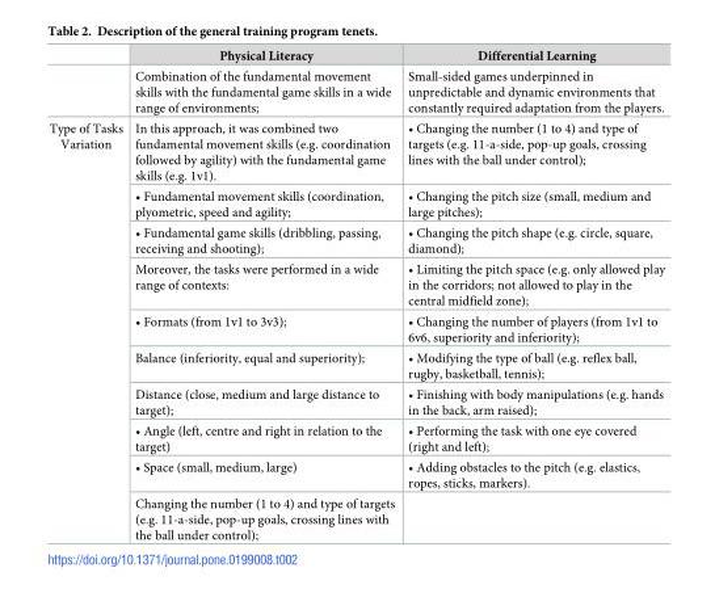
<table><thead><tr><td></td><td>Physical Literacy</td><td>Differential Learning</td></tr></thead><tbody><tr><td></td><td>Combination of the fundamental movement skills with the fundamental game skills in a wide range of environments;</td><td>Small-sided games underpinned in unpredictable and dynamic environments that constantly required adaptation from the players.</td></tr><tr><td rowspan="10">Type of Tasks Variation</td><td>In this approach, it was combined two fundamental movement skills (e.g. coordination followed by agility) with the fundamental game skills (e.g. 1v1).</td><td>• Changing the number (1 to 4) and type of targets (e.g. 11-a-side, pop-up goals, crossing lines with the ball under control);</td></tr><tr><td>• Fundamental movement skills (coordination, plyometric, speed and agility;</td><td>• Changing the pitch size (small, medium and large pitches);</td></tr><tr><td>• Fundamental game skills (dribbling, passing, receiving and shooting);</td><td>• Changing the pitch shape (e.g. circle, square, diamond);</td></tr><tr><td>Moreover, the tasks were performed in a wide range of contexts:</td><td>• Limiting the pitch space (e.g. only allowed play in the corridors; not allowed to play in the central midfield zone);</td></tr><tr><td>• Formats (from 1v1 to 3v3);</td><td>• Changing the number of players (from 1v1 to 6v6, superiority and inferiority);</td></tr><tr><td>Balance (inferiority, equal and superiority);</td><td>• Modifying the type of ball (e.g. reflex ball, rugby, basketball, tennis);</td></tr><tr><td>Distance (close, medium and large distance to target);</td><td>• Finishing with body manipulations (e.g. hands in the back, arm raised);</td></tr><tr><td>• Angle (left, centre and right in relation to the target)</td><td>• Performing the task with one eye covered (right and left);</td></tr><tr><td>• Space (small, medium, large)</td><td>• Adding obstacles to the pitch (e.g. elastics, ropes, sticks, markers).</td></tr><tr><td>Changing the number (1 to 4) and type of targets (e.g. 11-a-side, pop-up goals, crossing lines with the ball under control);</td><td></td></tr></tbody></table>